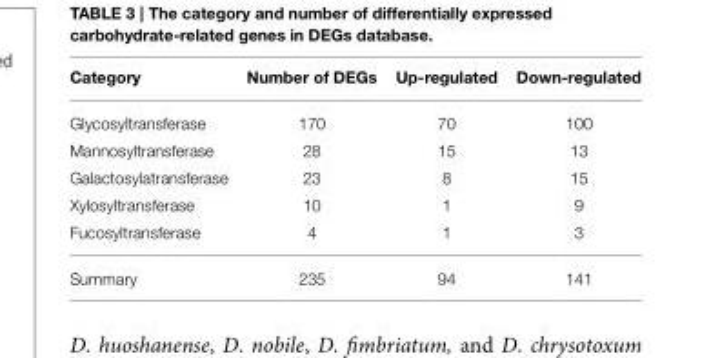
<table><thead><tr><td>Category</td><td>Number of DEGs</td><td>Up-regulated</td><td>Down-regulated</td></tr></thead><tbody><tr><td>Glycosyltransferase</td><td>170</td><td>70</td><td>100</td></tr><tr><td>Mannosyltransferase</td><td>28</td><td>15</td><td>13</td></tr><tr><td>Galactosylatransferase</td><td>23</td><td>8</td><td>15</td></tr><tr><td>Xylosyltransferase</td><td>10</td><td>1</td><td>9</td></tr><tr><td>Fucosyltransferase</td><td>4</td><td>1</td><td>3</td></tr><tr><td>Summary</td><td>235</td><td>94</td><td>141</td></tr></tbody></table>